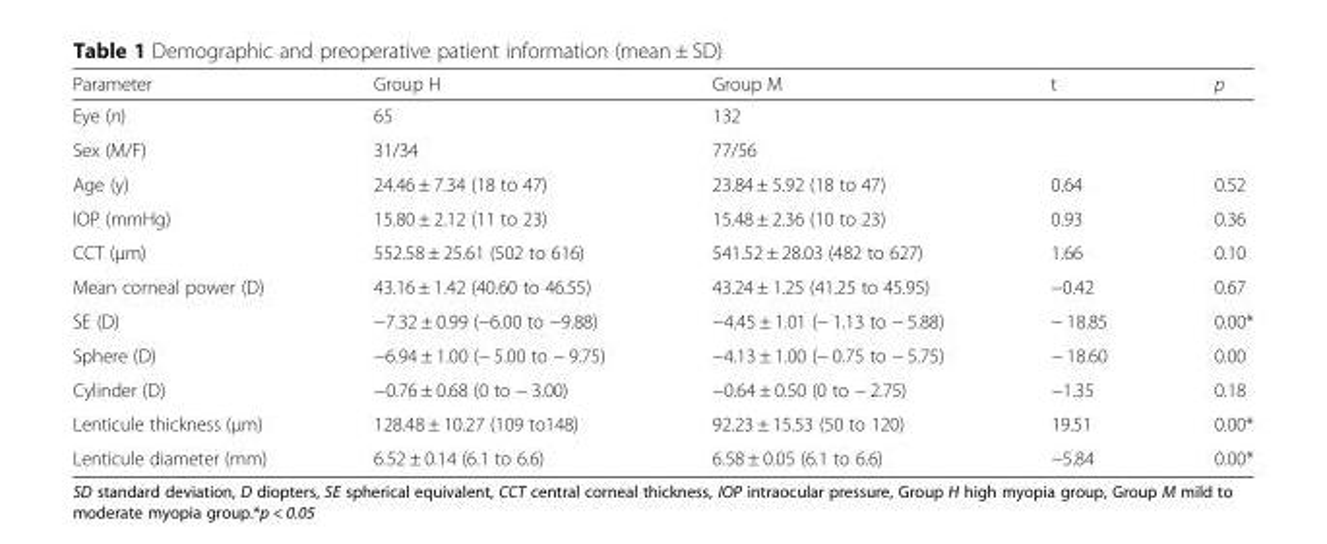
<table><thead><tr><td>Parameter</td><td>Group H</td><td>Group M</td><td>t</td><td>p</td></tr></thead><tbody><tr><td>Eye (n)</td><td>65</td><td>132</td><td></td><td></td></tr><tr><td>Sex (M/F)</td><td>31/34</td><td>77/56</td><td></td><td></td></tr><tr><td>Age (y)</td><td>24.46 ± 7.34 (18 to 47)</td><td>23.84 ± 5.92 (18 to 47)</td><td>0.64</td><td>0.52</td></tr><tr><td>IOP (mmHg)</td><td>15.80 ± 2.12 (11 to 23)</td><td>15.48 ± 2.36 (10 to 23)</td><td>0.93</td><td>0.36</td></tr><tr><td>CCT (μm)</td><td>552.58 ± 25.61 (502 to 616)</td><td>541.52 ± 28.03 (482 to 627)</td><td>1.66</td><td>0.10</td></tr><tr><td>Mean corneal power (D)</td><td>43.16 ± 1.42 (40.60 to 46.55)</td><td>43.24 ± 1.25 (41.25 to 45.95)</td><td>−0.42</td><td>0.67</td></tr><tr><td>SE (D)</td><td>−7.32 ± 0.99 (−6.00 to −9.88)</td><td>−4.45 ± 1.01 (− 1.13 to − 5.88)</td><td>− 18.85</td><td>0.00*</td></tr><tr><td>Sphere (D)</td><td>−6.94 ± 1.00 (− 5.00 to − 9.75)</td><td>−4.13 ± 1.00 (− 0.75 to − 5.75)</td><td>− 18.60</td><td>0.00</td></tr><tr><td>Cylinder (D)</td><td>−0.76 ± 0.68 (0 to − 3.00)</td><td>−0.64 ± 0.50 (0 to − 2.75)</td><td>−1.35</td><td>0.18</td></tr><tr><td>Lenticule thickness (μm)</td><td>128.48 ± 10.27 (109 to148)</td><td>92.23 ± 15.53 (50 to 120)</td><td>19.51</td><td>0.00*</td></tr><tr><td>Lenticule diameter (mm)</td><td>6.52 ± 0.14 (6.1 to 6.6)</td><td>6.58 ± 0.05 (6.1 to 6.6)</td><td>−5.84</td><td>0.00*</td></tr></tbody></table>